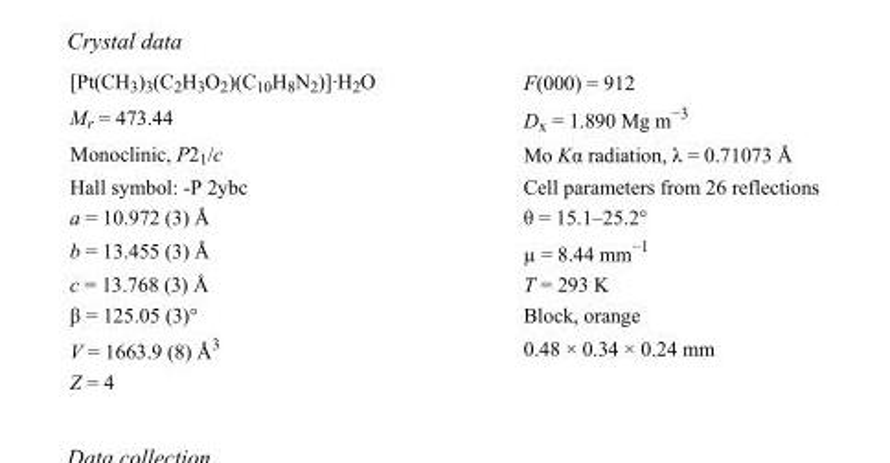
<table><tbody><tr><td>[Pt(CH<sub>3</sub>)<sub>3</sub>(C<sub>2</sub>H<sub>3</sub>O<sub>2</sub>)(C<sub>10</sub>H<sub>8</sub>N<sub>2</sub>)]·H<sub>2</sub>O</td><td>F(000) = 912</td></tr><tr><td>M<sub>r</sub> = 473.44</td><td>D<sub>x</sub> = 1.890 Mg m<sup>−3</sup></td></tr><tr><td>Monoclinic, P2<sub>1</sub>/c</td><td>Mo Kα radiation, λ = 0.71073 Å</td></tr><tr><td>Hall symbol: -P 2ybc</td><td>Cell parameters from 26 reflections</td></tr><tr><td>a = 10.972 (3) Å</td><td>θ = 15.1–25.2°</td></tr><tr><td>b = 13.455 (3) Å</td><td>µ = 8.44 mm<sup>−1</sup></td></tr><tr><td>c = 13.768 (3) Å</td><td>T = 293 K</td></tr><tr><td>β = 125.05 (3)°</td><td>Block, orange</td></tr><tr><td>V = 1663.9 (8) Å<sup>3</sup></td><td>0.48 × 0.34 × 0.24 mm</td></tr><tr><td>Z = 4</td><td></td></tr></tbody></table>